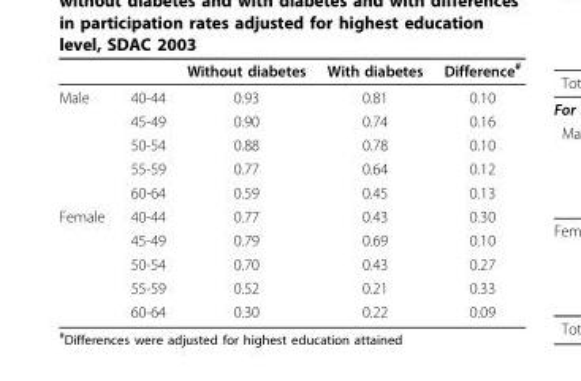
<table><thead><tr><td></td><td></td><td>Without diabetes</td><td>With diabetes</td><td>Difference<sup>#</sup></td></tr></thead><tbody><tr><td rowspan="5">Male</td><td>40-44</td><td>0.93</td><td>0.81</td><td>0.10</td></tr><tr><td>45-49</td><td>0.90</td><td>0.74</td><td>0.16</td></tr><tr><td>50-54</td><td>0.88</td><td>0.78</td><td>0.10</td></tr><tr><td>55-59</td><td>0.77</td><td>0.64</td><td>0.12</td></tr><tr><td>60-64</td><td>0.59</td><td>0.45</td><td>0.13</td></tr><tr><td rowspan="5">Female</td><td>40-44</td><td>0.77</td><td>0.43</td><td>0.30</td></tr><tr><td>45-49</td><td>0.79</td><td>0.69</td><td>0.10</td></tr><tr><td>50-54</td><td>0.70</td><td>0.43</td><td>0.27</td></tr><tr><td>55-59</td><td>0.52</td><td>0.21</td><td>0.33</td></tr><tr><td>60-64</td><td>0.30</td><td>0.22</td><td>0.09</td></tr></tbody></table>